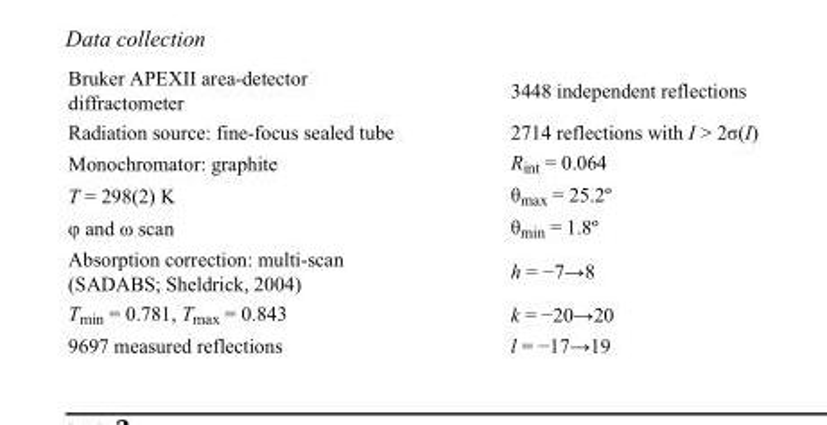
<table><tbody><tr><td>Bruker APEXII area-detector diffractometer</td><td>3448 independent reflections</td></tr><tr><td>Radiation source: fine-focus sealed tube</td><td>2714 reflections with I &gt; 2σ(I)</td></tr><tr><td>Monochromator: graphite</td><td>R<sub>int</sub> = 0.064</td></tr><tr><td>T = 298(2) K</td><td>θ<sub>max</sub> = 25.2º</td></tr><tr><td>φ and ω scan</td><td>θ<sub>min</sub> = 1.8º</td></tr><tr><td>Absorption correction: multi-scan (SADABS; Sheldrick, 2004)</td><td>h = −7→8</td></tr><tr><td>T<sub>min</sub> = 0.781, T<sub>max</sub> = 0.843</td><td>k = −20→20</td></tr><tr><td>9697 measured reflections</td><td>l = −17→19</td></tr></tbody></table>